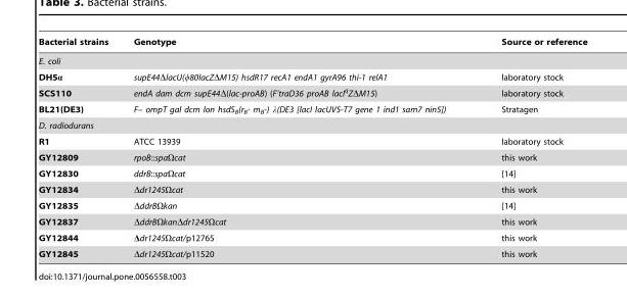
<table><thead><tr><td>Bacterial strains</td><td>Genotype</td><td>Source or reference</td></tr></thead><tbody><tr><td colspan="3">E. coli</td></tr><tr><td>DH5α</td><td>supE44ΔlacU(φ80lacZΔM15) hsdR17 recA1 endA1 gyrA96 thi-1 relA1</td><td>laboratory stock</td></tr><tr><td>SCS110</td><td>endA dam dcm supE44Δ(lac-proAB) (F’traD36 proAB lacI<sup>q</sup>ZΔM15)</td><td>laboratory stock</td></tr><tr><td>BL21(DE3)</td><td>F– ompT gal dcm lon hsdS<sub>B</sub>(r<sub>B</sub>- m<sub>B</sub>-) λ(DE3 [lacI lacUV5-T7 gene 1 ind1 sam7 nin5])</td><td>Stratagen</td></tr><tr><td colspan="3">D. radiodurans</td></tr><tr><td>R1</td><td>ATCC 13939</td><td>laboratory stock</td></tr><tr><td>GY12809</td><td>rpoB::spaΩcat</td><td>this work</td></tr><tr><td>GY12830</td><td>ddrB::spaΩcat</td><td>[14]</td></tr><tr><td>GY12834</td><td>Δdr1245Ωcat</td><td>this work</td></tr><tr><td>GY12835</td><td>ΔddrBΩkan</td><td>[14]</td></tr><tr><td>GY12837</td><td>ΔddrBΩkanΔdr1245Ωcat</td><td>this work</td></tr><tr><td>GY12844</td><td>Δdr1245Ωcat/p12765</td><td>this work</td></tr><tr><td>GY12845</td><td>Δdr1245Ωcat/p11520</td><td>this work</td></tr></tbody></table>